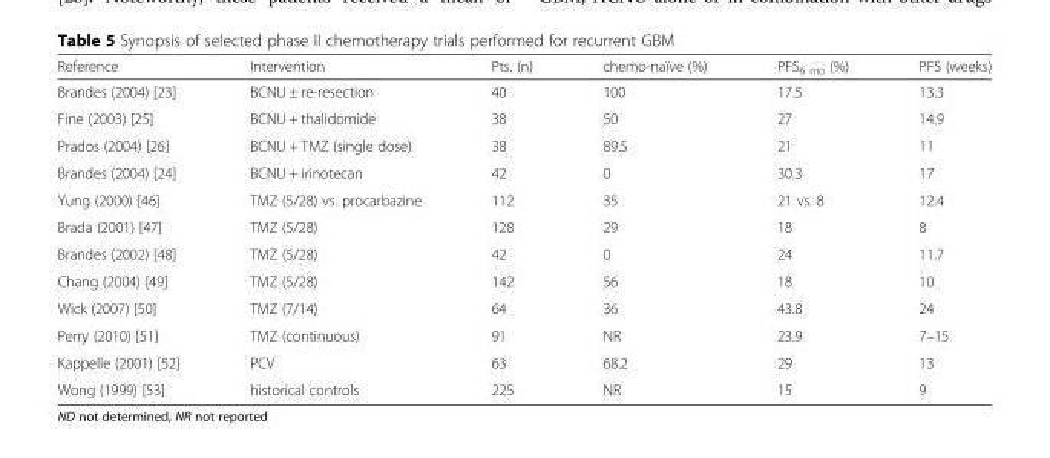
<table><thead><tr><td>Reference</td><td>Intervention</td><td>Pts. (n)</td><td>chemo-naïve (%)</td><td>PFS<sub>6 mo</sub> (%)</td><td>PFS (weeks)</td></tr></thead><tbody><tr><td>Brandes (2004) [23]</td><td>BCNU ± re-resection</td><td>40</td><td>100</td><td>17.5</td><td>13.3</td></tr><tr><td>Fine (2003) [25]</td><td>BCNU + thalidomide</td><td>38</td><td>50</td><td>27</td><td>14.9</td></tr><tr><td>Prados (2004) [26]</td><td>BCNU + TMZ (single dose)</td><td>38</td><td>89.5</td><td>21</td><td>11</td></tr><tr><td>Brandes (2004) [24]</td><td>BCNU + irinotecan</td><td>42</td><td>0</td><td>30.3</td><td>17</td></tr><tr><td>Yung (2000) [46]</td><td>TMZ (5/28) vs. procarbazine</td><td>112</td><td>35</td><td>21 vs. 8</td><td>12.4</td></tr><tr><td>Brada (2001) [47]</td><td>TMZ (5/28)</td><td>128</td><td>29</td><td>18</td><td>8</td></tr><tr><td>Brandes (2002) [48]</td><td>TMZ (5/28)</td><td>42</td><td>0</td><td>24</td><td>11.7</td></tr><tr><td>Chang (2004) [49]</td><td>TMZ (5/28)</td><td>142</td><td>56</td><td>18</td><td>10</td></tr><tr><td>Wick (2007) [50]</td><td>TMZ (7/14)</td><td>64</td><td>36</td><td>43.8</td><td>24</td></tr><tr><td>Perry (2010) [51]</td><td>TMZ (continuous)</td><td>91</td><td>NR</td><td>23.9</td><td>7–15</td></tr><tr><td>Kappelle (2001) [52]</td><td>PCV</td><td>63</td><td>68.2</td><td>29</td><td>13</td></tr><tr><td>Wong (1999) [53]</td><td>historical controls</td><td>225</td><td>NR</td><td>15</td><td>9</td></tr></tbody></table>